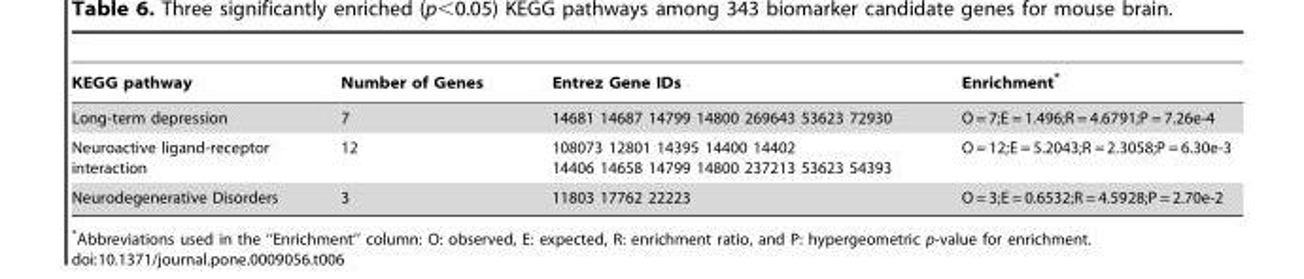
<table><thead><tr><td>KEGG pathway</td><td>Number of Genes</td><td>Entrez Gene IDs</td><td>Enrichment*</td></tr></thead><tbody><tr><td>Long-term depression</td><td>7</td><td>14681 14687 14799 14800 269643 53623 72930</td><td>O = 7;E = 1.496;R = 4.6791;P = 7.26e-4</td></tr><tr><td>Neuroactive ligand-receptor interaction</td><td>12</td><td>108073 12801 14395 14400 14402 14406 14658 14799 14800 237213 53623 54393</td><td>O = 12;E = 5.2043;R = 2.3058;P = 6.30e-3</td></tr><tr><td>Neurodegenerative Disorders</td><td>3</td><td>11803 17762 22223</td><td>O = 3;E = 0.6532;R = 4.5928;P = 2.70e-2</td></tr></tbody></table>